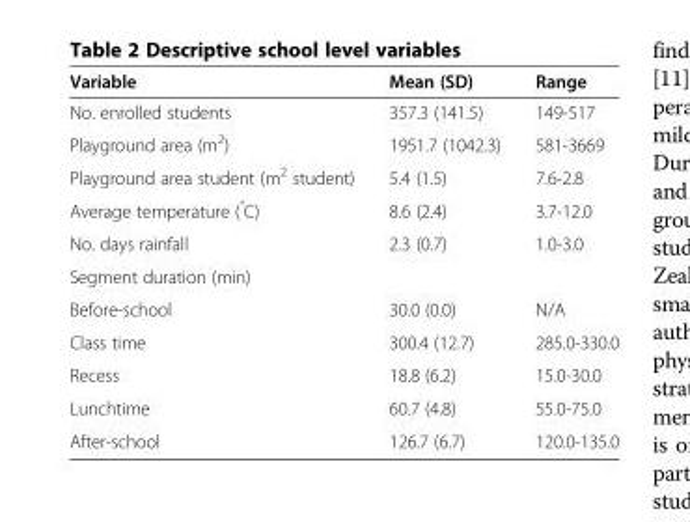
<table><thead><tr><td>Variable</td><td>Mean (SD)</td><td>Range</td></tr></thead><tbody><tr><td>No. enrolled students</td><td>357.3 (141.5)</td><td>149-517</td></tr><tr><td>Playground area (m<sup>2</sup>)</td><td>1951.7 (1042.3)</td><td>581-3669</td></tr><tr><td>Playground area student (m<sup>2</sup> student)</td><td>5.4 (1.5)</td><td>7.6-2.8</td></tr><tr><td>Average temperature (<sup>°</sup>C)</td><td>8.6 (2.4)</td><td>3.7-12.0</td></tr><tr><td>No. days rainfall</td><td>2.3 (0.7)</td><td>1.0-3.0</td></tr><tr><td colspan="3">Segment duration (min)</td></tr><tr><td>Before-school</td><td>30.0 (0.0)</td><td>N/A</td></tr><tr><td>Class time</td><td>300.4 (12.7)</td><td>285.0-330.0</td></tr><tr><td>Recess</td><td>18.8 (6.2)</td><td>15.0-30.0</td></tr><tr><td>Lunchtime</td><td>60.7 (4.8)</td><td>55.0-75.0</td></tr><tr><td>After-school</td><td>126.7 (6.7)</td><td>120.0-135.0</td></tr></tbody></table>